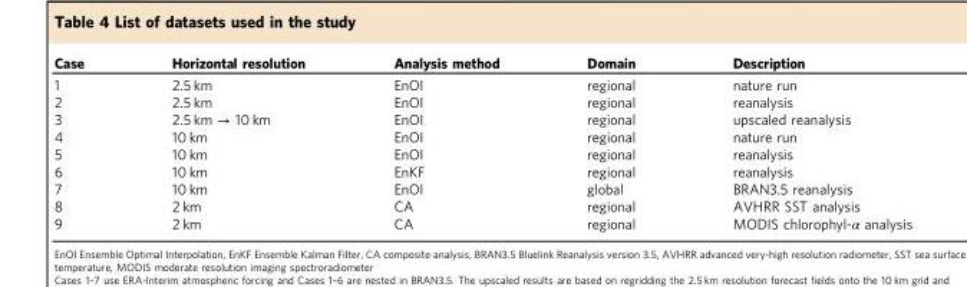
<table><thead><tr><td>Case</td><td>Horizontal resolution</td><td>Analysis method</td><td>Domain</td><td>Description</td></tr></thead><tbody><tr><td>1</td><td>2.5 km</td><td>EnOI</td><td>regional</td><td>nature run</td></tr><tr><td>2</td><td>2.5 km</td><td>EnOI</td><td>regional</td><td>reanalysis</td></tr><tr><td>3</td><td>2.5 km → 10 km</td><td>EnOI</td><td>regional</td><td>upscaled reanalysis</td></tr><tr><td>4</td><td>10 km</td><td>EnOI</td><td>regional</td><td>nature run</td></tr><tr><td>5</td><td>10 km</td><td>EnOI</td><td>regional</td><td>reanalysis</td></tr><tr><td>6</td><td>10 km</td><td>EnKF</td><td>regional</td><td>reanalysis</td></tr><tr><td>7</td><td>10 km</td><td>EnOI</td><td>global</td><td>BRAN3.5 reanalysis</td></tr><tr><td>8</td><td>2 km</td><td>CA</td><td>regional</td><td>AVHRR SST analysis</td></tr><tr><td>9</td><td>2 km</td><td>CA</td><td>regional</td><td>MODIS chlorophyl-α analysis</td></tr></tbody></table>